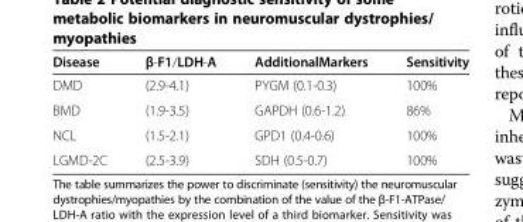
<table><thead><tr><td>Disease</td><td>β-F1/LDH-A</td><td>AdditionalMarkers</td><td>Sensitivity</td></tr></thead><tbody><tr><td>DMD</td><td>(2.9-4.1)</td><td>PYGM (0.1-0.3)</td><td>100%</td></tr><tr><td>BMD</td><td>(1.9-3.5)</td><td>GAPDH (0.6-1.2)</td><td>86%</td></tr><tr><td>NCL</td><td>(1.5-2.1)</td><td>GPD1 (0.4-0.6)</td><td>100%</td></tr><tr><td>LGMD-2C</td><td>(2.5-3.9)</td><td>SDH (0.5-0.7)</td><td>100%</td></tr></tbody></table>